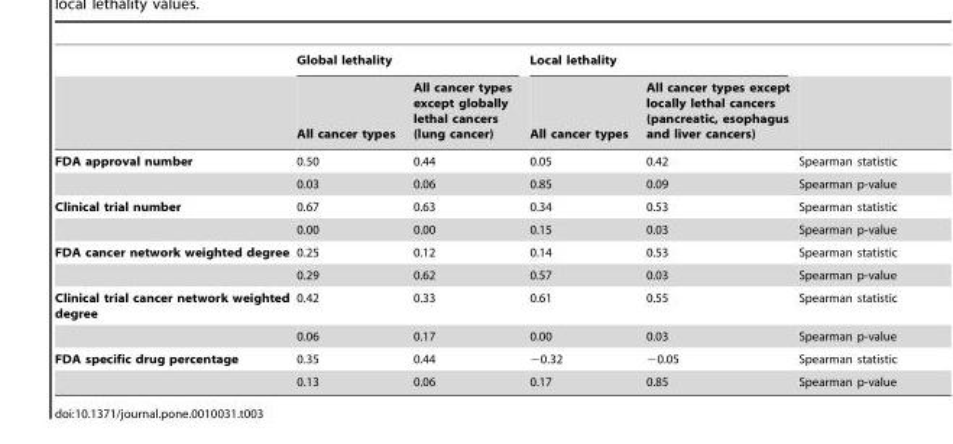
<table><thead><tr><td rowspan="2"></td><td colspan="2">Global lethality</td><td colspan="2">Local lethality</td><td rowspan="2"></td></tr><tr><td>All cancer types</td><td>All cancer types except globally lethal cancers (lung cancer)</td><td>All cancer types</td><td>All cancer types except locally lethal cancers (pancreatic, esophagus and liver cancers)</td></tr></thead><tbody><tr><td rowspan="2">FDA approval number</td><td>0.50</td><td>0.44</td><td>0.05</td><td>0.42</td><td>Spearman statistic</td></tr><tr><td>0.03</td><td>0.06</td><td>0.85</td><td>0.09</td><td>Spearman p-value</td></tr><tr><td rowspan="2">Clinical trial number</td><td>0.67</td><td>0.63</td><td>0.34</td><td>0.53</td><td>Spearman statistic</td></tr><tr><td>0.00</td><td>0.00</td><td>0.15</td><td>0.03</td><td>Spearman p-value</td></tr><tr><td rowspan="2">FDA cancer network weighted degree</td><td>0.25</td><td>0.12</td><td>0.14</td><td>0.53</td><td>Spearman statistic</td></tr><tr><td>0.29</td><td>0.62</td><td>0.57</td><td>0.03</td><td>Spearman p-value</td></tr><tr><td rowspan="2">Clinical trial cancer network weighted degree</td><td>0.42</td><td>0.33</td><td>0.61</td><td>0.55</td><td>Spearman statistic</td></tr><tr><td>0.06</td><td>0.17</td><td>0.00</td><td>0.03</td><td>Spearman p-value</td></tr><tr><td rowspan="2">FDA specific drug percentage</td><td>0.35</td><td>0.44</td><td>−0.32</td><td>−0.05</td><td>Spearman statistic</td></tr><tr><td>0.13</td><td>0.06</td><td>0.17</td><td>0.85</td><td>Spearman p-value</td></tr></tbody></table>